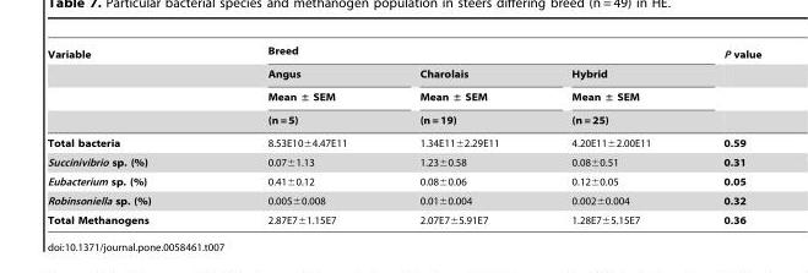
<table><thead><tr><td rowspan="4">Variable</td><td colspan="3">Breed</td><td rowspan="4">P value</td></tr><tr><td rowspan="3">Angus Mean ± SEM (n = 5)</td><td rowspan="3">Charolais Mean ± SEM (n = 19)</td><td rowspan="3">Hybrid Mean ± SEM (n = 25)</td></tr><tr></tr><tr></tr></thead><tbody><tr><td>Total bacteria</td><td>8.53E10±4.47E11</td><td>1.34E11±2.29E11</td><td>4.20E11±2.00E11</td><td>0.59</td></tr><tr><td>Succinivibrio sp. (%)</td><td>0.07±1.13</td><td>1.23±0.58</td><td>0.08±0.51</td><td>0.31</td></tr><tr><td>Eubacterium sp. (%)</td><td>0.41±0.12</td><td>0.08±0.06</td><td>0.12±0.05</td><td>0.05</td></tr><tr><td>Robinsoniella sp. (%)</td><td>0.005±0.008</td><td>0.01±0.004</td><td>0.002±0.004</td><td>0.32</td></tr><tr><td>Total Methanogens</td><td>2.87E7±1.15E7</td><td>2.07E7±5.91E7</td><td>1.28E7±5.15E7</td><td>0.36</td></tr></tbody></table>